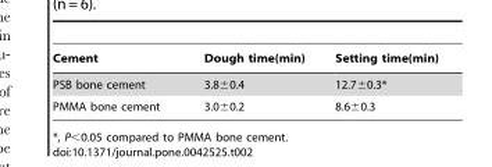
<table><thead><tr><td>Cement</td><td>Dough time(min)</td><td>Setting time(min)</td></tr></thead><tbody><tr><td>PSB bone cement</td><td>3.8±0.4</td><td>12.7±0.3*</td></tr><tr><td>PMMA bone cement</td><td>3.0±0.2</td><td>8.6±0.3</td></tr></tbody></table>